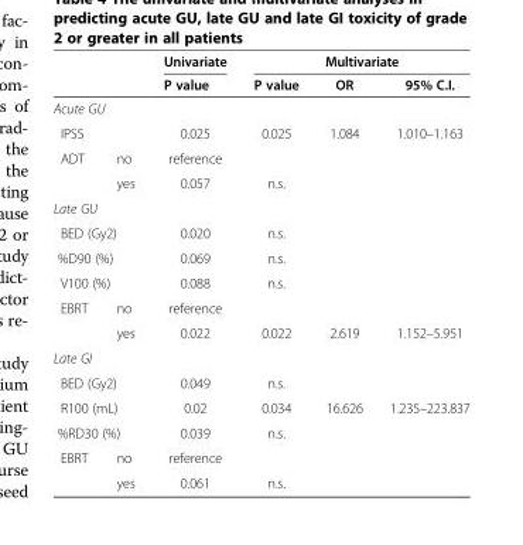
<table><thead><tr><td rowspan="2"></td><td rowspan="2"></td><td rowspan="2">Univariate P value</td><td colspan="3">Multivariate</td></tr><tr><td>P value</td><td>OR</td><td>95% C.I.</td></tr></thead><tbody><tr><td colspan="6">Acute GU</td></tr><tr><td colspan="2">IPSS</td><td>0.025</td><td>0.025</td><td>1.084</td><td>1.010–1.163</td></tr><tr><td rowspan="2">ADT</td><td>no</td><td>reference</td><td></td><td></td><td></td></tr><tr><td>yes</td><td>0.057</td><td>n.s.</td><td></td><td></td></tr><tr><td colspan="6">Late GU</td></tr><tr><td colspan="2">BED (Gy2)</td><td>0.020</td><td>n.s.</td><td></td><td></td></tr><tr><td colspan="2">%D90 (%)</td><td>0.069</td><td>n.s.</td><td></td><td></td></tr><tr><td colspan="2">V100 (%)</td><td>0.088</td><td>n.s.</td><td></td><td></td></tr><tr><td rowspan="2">EBRT</td><td>no</td><td>reference</td><td></td><td></td><td></td></tr><tr><td>yes</td><td>0.022</td><td>0.022</td><td>2.619</td><td>1.152–5.951</td></tr><tr><td colspan="6">Late GI</td></tr><tr><td colspan="2">BED (Gy2)</td><td>0.049</td><td>n.s.</td><td></td><td></td></tr><tr><td colspan="2">R100 (mL)</td><td>0.02</td><td>0.034</td><td>16.626</td><td>1.235–223.837</td></tr><tr><td colspan="2">%RD30 (%)</td><td>0.039</td><td>n.s.</td><td></td><td></td></tr><tr><td rowspan="2">EBRT</td><td>no</td><td>reference</td><td></td><td></td><td></td></tr><tr><td>yes</td><td>0.061</td><td>n.s.</td><td></td><td></td></tr></tbody></table>